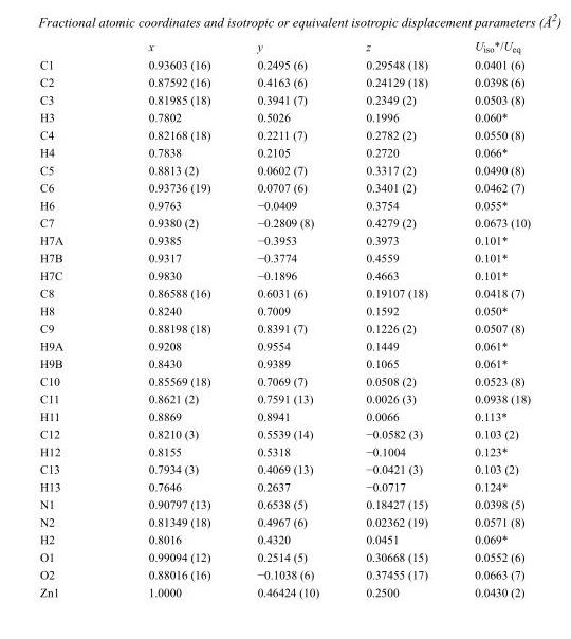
<table><thead><tr><td></td><td>x</td><td>y</td><td>z</td><td>U<sub>iso</sub>*/U<sub>eq</sub></td></tr></thead><tbody><tr><td>C1</td><td>0.93603 (16)</td><td>0.2495 (6)</td><td>0.29548 (18)</td><td>0.0401 (6)</td></tr><tr><td>C2</td><td>0.87592 (16)</td><td>0.4163 (6)</td><td>0.24129 (18)</td><td>0.0398 (6)</td></tr><tr><td>C3</td><td>0.81985 (18)</td><td>0.3941 (7)</td><td>0.2349 (2)</td><td>0.0503 (8)</td></tr><tr><td>H3</td><td>0.7802</td><td>0.5026</td><td>0.1996</td><td>0.060*</td></tr><tr><td>C4</td><td>0.82168 (18)</td><td>0.2211 (7)</td><td>0.2782 (2)</td><td>0.0550 (8)</td></tr><tr><td>H4</td><td>0.7838</td><td>0.2105</td><td>0.2720</td><td>0.066*</td></tr><tr><td>C5</td><td>0.8813 (2)</td><td>0.0602 (7)</td><td>0.3317 (2)</td><td>0.0490 (8)</td></tr><tr><td>C6</td><td>0.93736 (19)</td><td>0.0707 (6)</td><td>0.3401 (2)</td><td>0.0462 (7)</td></tr><tr><td>H6</td><td>0.9763</td><td>−0.0409</td><td>0.3754</td><td>0.055*</td></tr><tr><td>C7</td><td>0.9380 (2)</td><td>−0.2809 (8)</td><td>0.4279 (2)</td><td>0.0673 (10)</td></tr><tr><td>H7A</td><td>0.9385</td><td>−0.3953</td><td>0.3973</td><td>0.101*</td></tr><tr><td>H7B</td><td>0.9317</td><td>−0.3774</td><td>0.4559</td><td>0.101*</td></tr><tr><td>H7C</td><td>0.9830</td><td>−0.1896</td><td>0.4663</td><td>0.101*</td></tr><tr><td>C8</td><td>0.86588 (16)</td><td>0.6031 (6)</td><td>0.19107 (18)</td><td>0.0418 (7)</td></tr><tr><td>H8</td><td>0.8240</td><td>0.7009</td><td>0.1592</td><td>0.050*</td></tr><tr><td>C9</td><td>0.88198 (18)</td><td>0.8391 (7)</td><td>0.1226 (2)</td><td>0.0507 (8)</td></tr><tr><td>H9A</td><td>0.9208</td><td>0.9554</td><td>0.1449</td><td>0.061*</td></tr><tr><td>H9B</td><td>0.8430</td><td>0.9389</td><td>0.1065</td><td>0.061*</td></tr><tr><td>C10</td><td>0.85569 (18)</td><td>0.7069 (7)</td><td>0.0508 (2)</td><td>0.0523 (8)</td></tr><tr><td>C11</td><td>0.8621 (2)</td><td>0.7591 (13)</td><td>0.0026 (3)</td><td>0.0938 (18)</td></tr><tr><td>H11</td><td>0.8869</td><td>0.8941</td><td>0.0066</td><td>0.113*</td></tr><tr><td>C12</td><td>0.8210 (3)</td><td>0.5539 (14)</td><td>−0.0582 (3)</td><td>0.103 (2)</td></tr><tr><td>H12</td><td>0.8155</td><td>0.5318</td><td>−0.1004</td><td>0.123*</td></tr><tr><td>C13</td><td>0.7934 (3)</td><td>0.4069 (13)</td><td>−0.0421 (3)</td><td>0.103 (2)</td></tr><tr><td>H13</td><td>0.7646</td><td>0.2637</td><td>−0.0717</td><td>0.124*</td></tr><tr><td>N1</td><td>0.90797 (13)</td><td>0.6538 (5)</td><td>0.18427 (15)</td><td>0.0398 (5)</td></tr><tr><td>N2</td><td>0.81349 (18)</td><td>0.4967 (6)</td><td>0.02362 (19)</td><td>0.0571 (8)</td></tr><tr><td>H2</td><td>0.8016</td><td>0.4320</td><td>0.0451</td><td>0.069*</td></tr><tr><td>O1</td><td>0.99094 (12)</td><td>0.2514 (5)</td><td>0.30668 (15)</td><td>0.0552 (6)</td></tr><tr><td>O2</td><td>0.88016 (16)</td><td>−0.1038 (6)</td><td>0.37455 (17)</td><td>0.0663 (7)</td></tr><tr><td>Zn1</td><td>1.0000</td><td>0.46424 (10)</td><td>0.2500</td><td>0.0430 (2)</td></tr></tbody></table>